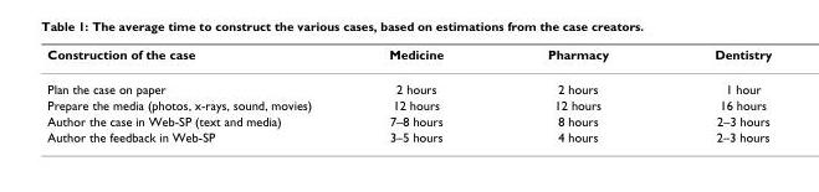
<table><thead><tr><td>Construction of the case</td><td>Medicine</td><td>Pharmacy</td><td>Dentistry</td></tr></thead><tbody><tr><td>Plan the case on paper</td><td>2 hours</td><td>2 hours</td><td>1 hour</td></tr><tr><td>Prepare the media (photos, x-rays, sound, movies)</td><td>12 hours</td><td>12 hours</td><td>16 hours</td></tr><tr><td>Author the case in Web-SP (text and media)</td><td>7–8 hours</td><td>8 hours</td><td>2–3 hours</td></tr><tr><td>Author the feedback in Web-SP</td><td>3–5 hours</td><td>4 hours</td><td>2–3 hours</td></tr></tbody></table>